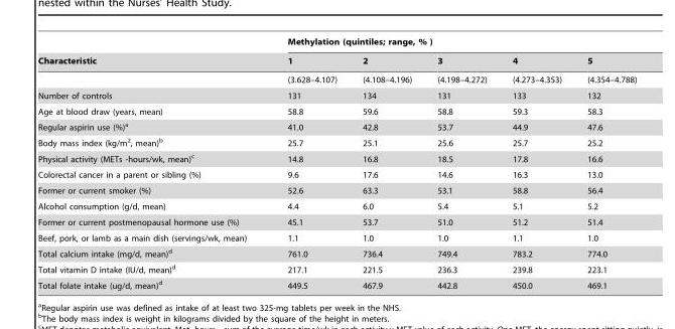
<table><thead><tr><td rowspan="2">Characteristic</td><td colspan="5">Methylation (quintiles; range, % )</td></tr><tr><td>1</td><td>2</td><td>3</td><td>4</td><td>5</td></tr></thead><tbody><tr><td></td><td>(3.628–4.107)</td><td>(4.108–4.196)</td><td>(4.198–4.272)</td><td>(4.273–4.353)</td><td>(4.354–4.788)</td></tr><tr><td>Number of controls</td><td>131</td><td>134</td><td>131</td><td>133</td><td>132</td></tr><tr><td>Age at blood draw (years, mean)</td><td>58.8</td><td>59.6</td><td>58.8</td><td>59.3</td><td>58.3</td></tr><tr><td>Regular aspirin use (%)<sup>a</sup></td><td>41.0</td><td>42.8</td><td>53.7</td><td>44.9</td><td>47.6</td></tr><tr><td>Body mass index (kg/m<sup>2</sup>, mean)<sup>b</sup></td><td>25.7</td><td>25.1</td><td>25.6</td><td>25.7</td><td>25.2</td></tr><tr><td>Physical activity (METs -hours/wk, mean)<sup>c</sup></td><td>14.8</td><td>16.8</td><td>18.5</td><td>17.8</td><td>16.6</td></tr><tr><td>Colorectal cancer in a parent or sibling (%)</td><td>9.6</td><td>17.6</td><td>14.6</td><td>16.3</td><td>13.0</td></tr><tr><td>Former or current smoker (%)</td><td>52.6</td><td>63.3</td><td>53.1</td><td>58.8</td><td>56.4</td></tr><tr><td>Alcohol consumption (g/d, mean)</td><td>4.4</td><td>6.0</td><td>5.4</td><td>5.1</td><td>5.2</td></tr><tr><td>Former or current postmenopausal hormone use (%)</td><td>45.1</td><td>53.7</td><td>51.0</td><td>51.2</td><td>51.4</td></tr><tr><td>Beef, pork, or lamb as a main dish (servings/wk, mean)</td><td>1.1</td><td>1.0</td><td>1.0</td><td>1.1</td><td>1.0</td></tr><tr><td>Total calcium intake (mg/d, mean)<sup>d</sup></td><td>761.0</td><td>736.4</td><td>749.4</td><td>783.2</td><td>774.0</td></tr><tr><td>Total vitamin D intake (IU/d, mean)<sup>d</sup></td><td>217.1</td><td>221.5</td><td>236.3</td><td>239.8</td><td>223.1</td></tr><tr><td>Total folate intake (ug/d, mean)<sup>d</sup></td><td>449.5</td><td>467.9</td><td>442.8</td><td>450.0</td><td>469.1</td></tr></tbody></table>